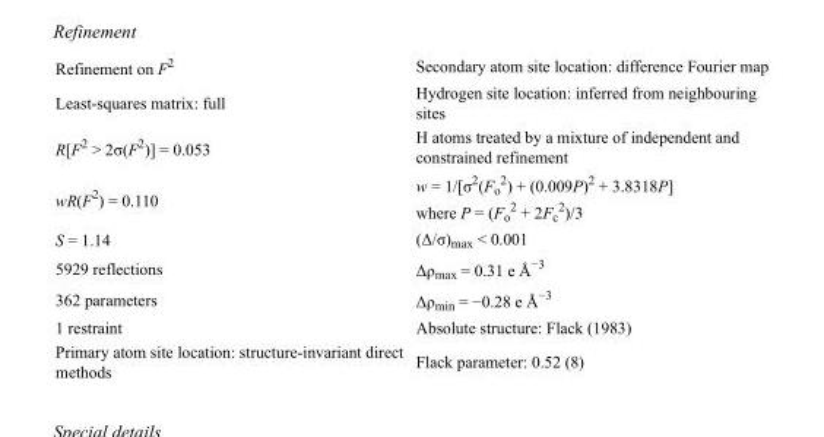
<table><tbody><tr><td>Refinement on F<sup>2</sup></td><td>Secondary atom site location: difference Fourier map</td></tr><tr><td>Least-squares matrix: full</td><td>Hydrogen site location: inferred from neighbouring sites</td></tr><tr><td>R[F<sup>2</sup> &gt; 2σ(F<sup>2</sup>)] = 0.053</td><td>H atoms treated by a mixture of independent and constrained refinement</td></tr><tr><td>wR(F<sup>2</sup>) = 0.110</td><td>w = 1/[σ<sup>2</sup>(F<sub>o</sub> <sup>2</sup>) + (0.009P)<sup>2</sup> + 3.8318P] where P = (F<sub>o</sub> <sup>2</sup> + 2F<sub>c</sub> <sup>2</sup>)/3</td></tr><tr><td>S = 1.14</td><td>(Δ/σ)<sub>max</sub> &lt; 0.001</td></tr><tr><td>5929 reflections</td><td>Δρ<sub>max</sub> = 0.31 e Å<sup>−3</sup></td></tr><tr><td>362 parameters</td><td>Δρ<sub>min</sub> = −0.28 e Å<sup>−3</sup></td></tr><tr><td>1 restraint</td><td>Absolute structure: Flack (1983)</td></tr><tr><td>Primary atom site location: structure-invariant direct methods</td><td>Flack parameter: 0.52 (8)</td></tr></tbody></table>